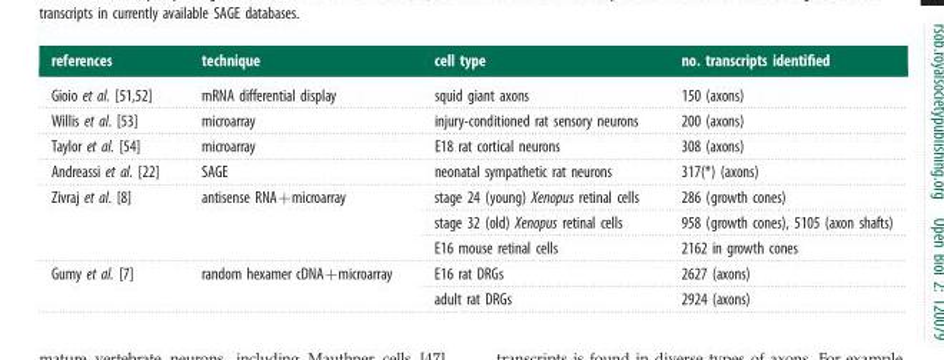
<table><thead><tr><td>references</td><td>technique</td><td>cell type</td><td>no. transcripts identified</td></tr></thead><tbody><tr><td>Gioio et al. [51,52]</td><td>mRNA differential display</td><td>squid giant axons</td><td>150 (axons)</td></tr><tr><td>Willis et al. [53]</td><td>microarray</td><td>injury-conditioned rat sensory neurons</td><td>200 (axons)</td></tr><tr><td>Taylor et al. [54]</td><td>microarray</td><td>E18 rat cortical neurons</td><td>308 (axons)</td></tr><tr><td>Andreassi et al. [22]</td><td>SAGE</td><td>neonatal sympathetic rat neurons</td><td>317(*) (axons)</td></tr><tr><td rowspan="3">Zivraj et al. [8]</td><td rowspan="3">antisense RNA+microarray</td><td>stage 24 (young) Xenopus retinal cells</td><td>286 (growth cones)</td></tr><tr><td>stage 32 (old) Xenopus retinal cells</td><td>958 (growth cones), 5105 (axon shafts)</td></tr><tr><td>E16 mouse retinal cells</td><td>2162 in growth cones</td></tr><tr><td rowspan="2">Gumy et al. [7]</td><td rowspan="2">random hexamer cDNA+microarray</td><td>E16 rat DRGs</td><td>2627 (axons)</td></tr><tr><td>adult rat DRGs</td><td>2924 (axons)</td></tr></tbody></table>